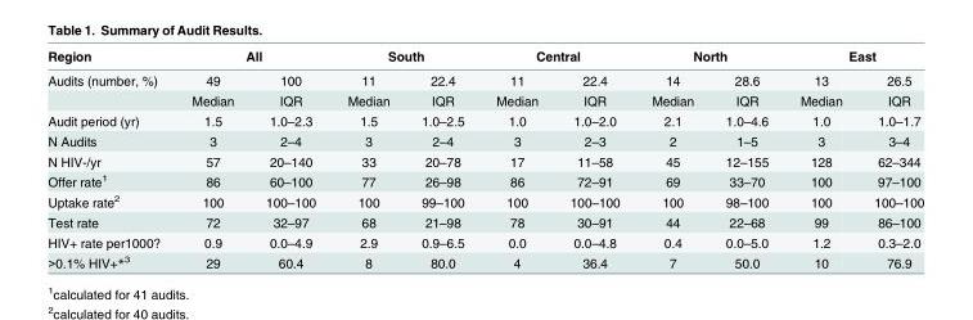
<table><thead><tr><td rowspan="2">Region Audits (number, %)</td><td colspan="2">All</td><td colspan="2">South</td><td colspan="2">Central</td><td colspan="2">North</td><td colspan="2">East</td></tr><tr><td>49</td><td>100</td><td>11</td><td>22.4</td><td>11</td><td>22.4</td><td>14</td><td>28.6</td><td>13</td><td>26.5</td></tr></thead><tbody><tr><td></td><td>Median</td><td>IQR</td><td>Median</td><td>IQR</td><td>Median</td><td>IQR</td><td>Median</td><td>IQR</td><td>Median</td><td>IQR</td></tr><tr><td>Audit period (yr)</td><td>1.5</td><td>1.0–2.3</td><td>1.5</td><td>1.0–2.5</td><td>1.0</td><td>1.0–2.0</td><td>2.1</td><td>1.0–4.6</td><td>1.0</td><td>1.0–1.7</td></tr><tr><td>N Audits</td><td>3</td><td>2–4</td><td>3</td><td>2–4</td><td>3</td><td>2–3</td><td>2</td><td>1–5</td><td>3</td><td>3–4</td></tr><tr><td>N HIV-/yr</td><td>57</td><td>20–140</td><td>33</td><td>20–78</td><td>17</td><td>11–58</td><td>45</td><td>12–155</td><td>128</td><td>62–344</td></tr><tr><td>Offer rate<sup>1</sup></td><td>86</td><td>60–100</td><td>77</td><td>26–98</td><td>86</td><td>72–91</td><td>69</td><td>33–70</td><td>100</td><td>97–100</td></tr><tr><td>Uptake rate<sup>2</sup></td><td>100</td><td>100–100</td><td>100</td><td>99–100</td><td>100</td><td>100–100</td><td>100</td><td>98–100</td><td>100</td><td>100–100</td></tr><tr><td>Test rate</td><td>72</td><td>32–97</td><td>68</td><td>21–98</td><td>78</td><td>30–91</td><td>44</td><td>22–68</td><td>99</td><td>86–100</td></tr><tr><td>HIV+ rate per1000?</td><td>0.9</td><td>0.0–4.9</td><td>2.9</td><td>0.9–6.5</td><td>0.0</td><td>0.0–4.8</td><td>0.4</td><td>0.0–5.0</td><td>1.2</td><td>0.3–2.0</td></tr><tr><td>&gt;0.1% HIV+*<sup>3</sup></td><td>29</td><td>60.4</td><td>8</td><td>80.0</td><td>4</td><td>36.4</td><td>7</td><td>50.0</td><td>10</td><td>76.9</td></tr></tbody></table>